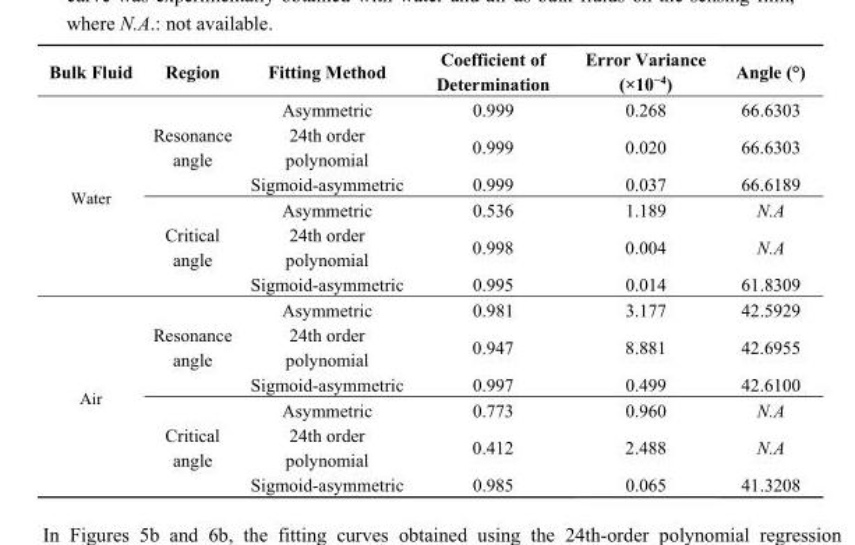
<table><thead><tr><td>Bulk Fluid</td><td>Region</td><td>Fitting Method</td><td>Coefficient of Determination</td><td>Error Variance (×10<sup>−4</sup>)</td><td>Angle (°)</td></tr></thead><tbody><tr><td rowspan="6">Water</td><td rowspan="3">Resonance angle</td><td>Asymmetric</td><td>0.999</td><td>0.268</td><td>66.6303</td></tr><tr><td>24th order polynomial</td><td>0.999</td><td>0.020</td><td>66.6303</td></tr><tr><td>Sigmoid-asymmetric</td><td>0.999</td><td>0.037</td><td>66.6189</td></tr><tr><td rowspan="3">Critical angle</td><td>Asymmetric</td><td>0.536</td><td>1.189</td><td>N.A</td></tr><tr><td>24th order polynomial</td><td>0.998</td><td>0.004</td><td>N.A</td></tr><tr><td>Sigmoid-asymmetric</td><td>0.995</td><td>0.014</td><td>61.8309</td></tr><tr><td rowspan="6">Air</td><td rowspan="3">Resonance angle</td><td>Asymmetric</td><td>0.981</td><td>3.177</td><td>42.5929</td></tr><tr><td>24th order polynomial</td><td>0.947</td><td>8.881</td><td>42.6955</td></tr><tr><td>Sigmoid-asymmetric</td><td>0.997</td><td>0.499</td><td>42.6100</td></tr><tr><td rowspan="3">Critical angle</td><td>Asymmetric</td><td>0.773</td><td>0.960</td><td>N.A</td></tr><tr><td>24th order polynomial</td><td>0.412</td><td>2.488</td><td>N.A</td></tr><tr><td>Sigmoid-asymmetric</td><td>0.985</td><td>0.065</td><td>41.3208</td></tr></tbody></table>